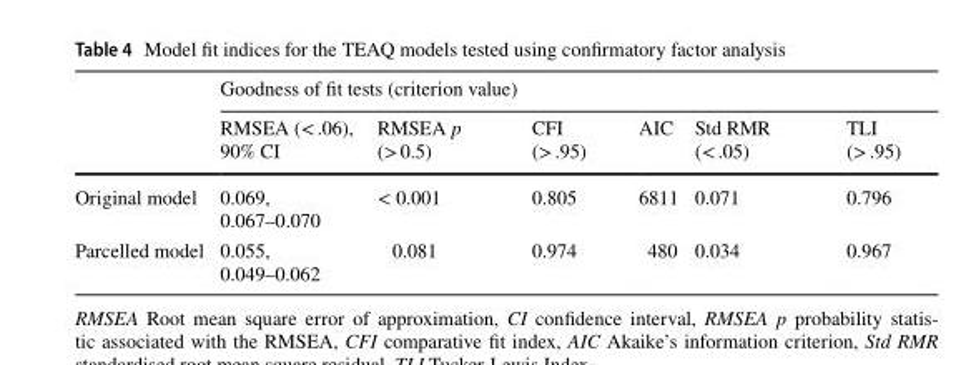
<table><thead><tr><td rowspan="2"></td><td colspan="6">Goodness of fit tests (criterion value)</td></tr><tr><td>RMSEA (&lt; .06), 90% CI</td><td>RMSEA p (&gt; 0.5)</td><td>CFI (&gt; .95)</td><td>AIC</td><td>Std RMR (&lt; .05)</td><td>TLI (&gt; .95)</td></tr></thead><tbody><tr><td>Original model</td><td>0.069, 0.067–0.070</td><td>&lt; 0.001</td><td>0.805</td><td>6811</td><td>0.071</td><td>0.796</td></tr><tr><td>Parcelled model</td><td>0.055, 0.049–0.062</td><td>0.081</td><td>0.974</td><td>480</td><td>0.034</td><td>0.967</td></tr></tbody></table>